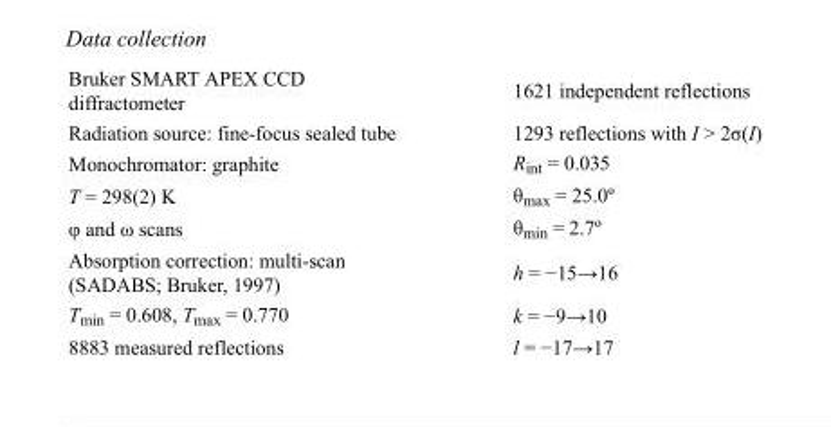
<table><tbody><tr><td>Bruker SMART APEX CCD diffractometer</td><td>1621 independent reflections</td></tr><tr><td>Radiation source: fine-focus sealed tube</td><td>1293 reflections with I &gt; 2σ(I)</td></tr><tr><td>Monochromator: graphite</td><td>R<sub>int</sub> = 0.035</td></tr><tr><td>T = 298(2) K</td><td>θ<sub>max</sub> = 25.0º</td></tr><tr><td>φ and ω scans</td><td>θ<sub>min</sub> = 2.7º</td></tr><tr><td>Absorption correction: multi-scan (SADABS; Bruker, 1997)</td><td>h = −15→16</td></tr><tr><td>T<sub>min</sub> = 0.608, T<sub>max</sub> = 0.770</td><td>k = −9→10</td></tr><tr><td>8883 measured reflections</td><td>l = −17→17</td></tr></tbody></table>